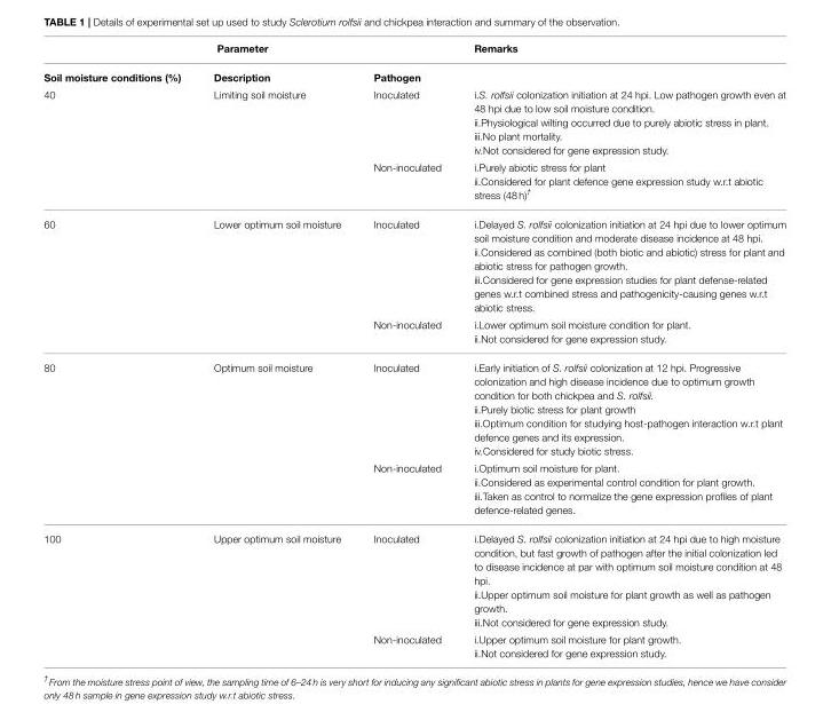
<table><thead><tr><td colspan="3">Parameter</td><td rowspan="2">Remarks</td></tr><tr><td>Soil moisture conditions (%)</td><td>Description</td><td>Pathogen</td></tr></thead><tbody><tr><td rowspan="2">40</td><td>Limiting soil moisture</td><td>Inoculated</td><td>i.S. rolfsii colonization initiation at 24 hpi. Low pathogen growth even at 48 hpi due to low soil moisture condition. ii.Physiological wilting occurred due to purely abiotic stress in plant. iii.No plant mortality. iv.Not considered for gene expression study.</td></tr><tr><td></td><td>Non-inoculated</td><td>i.Purely abiotic stress for plant ii.Considered for plant defence gene expression study w.r.t abiotic stress (48 h)<sup>†</sup></td></tr><tr><td rowspan="2">60</td><td>Lower optimum soil moisture</td><td>Inoculated</td><td>i.Delayed S. rolfsii colonization initiation at 24 hpi due to lower optimum soil moisture condition and moderate disease incidence at 48 hpi. ii.Considered as combined (both biotic and abiotic) stress for plant and abiotic stress for pathogen growth. iii.Considered for gene expression studies for plant defense-related genes w.r.t combined stress and pathogenicity-causing genes w.r.t abiotic stress.</td></tr><tr><td></td><td>Non-inoculated</td><td>i.Lower optimum soil moisture condition for plant. ii.Not considered for gene expression study.</td></tr><tr><td rowspan="2">80</td><td>Optimum soil moisture</td><td>Inoculated</td><td>i.Early initiation of S. rolfsii colonization at 12 hpi. Progressive colonization and high disease incidence due to optimum growth condition for both chickpea and S. rolfsii. ii.Purely biotic stress for plant growth iii.Optimum condition for studying host-pathogen interaction w.r.t plant defence genes and its expression. iv.Considered for study biotic stress.</td></tr><tr><td></td><td>Non-inoculated</td><td>i.Optimum soil moisture for plant. ii.Considered as experimental control condition for plant growth. iii.Taken as control to normalize the gene expression profiles of plant defence-related genes.</td></tr><tr><td rowspan="2">100</td><td>Upper optimum soil moisture</td><td>Inoculated</td><td>i.Delayed S. rolfsii colonization initiation at 24 hpi due to high moisture condition, but fast growth of pathogen after the initial colonization led to disease incidence at par with optimum soil moisture condition at 48 hpi. ii.Upper optimum soil moisture for plant growth as well as pathogen growth. iii.Not considered for gene expression study.</td></tr><tr><td></td><td>Non-inoculated</td><td>i.Upper optimum soil moisture for plant growth. ii.Not considered for gene expression study.</td></tr></tbody></table>